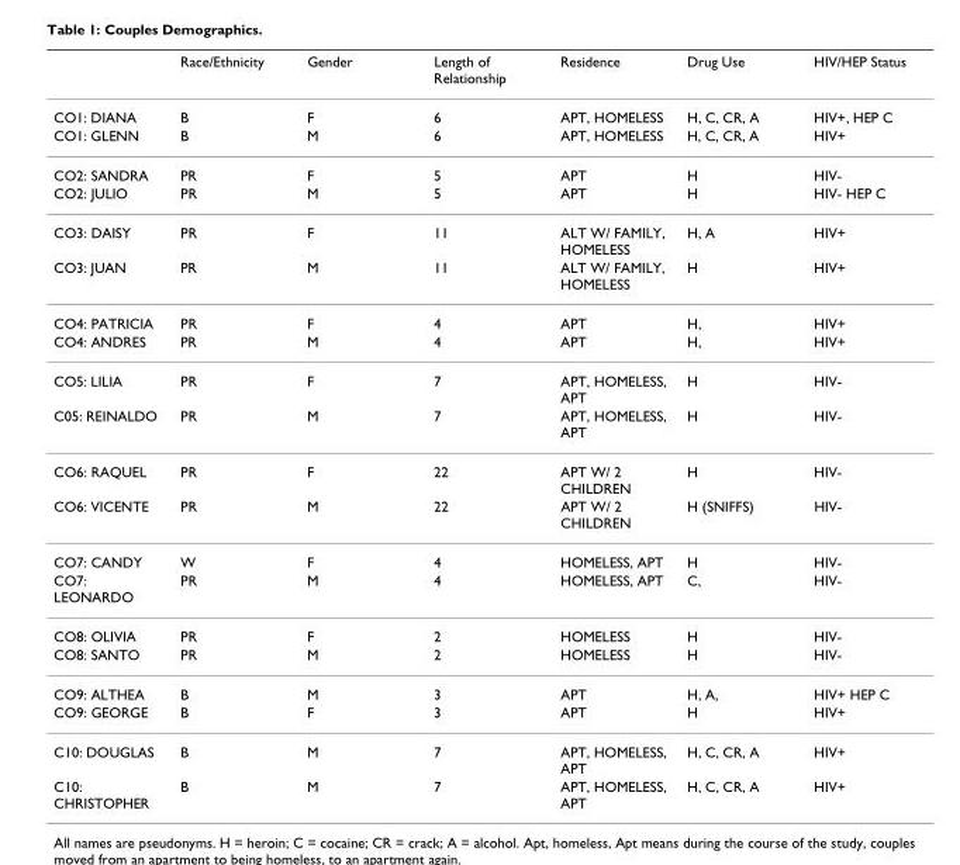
<table><thead><tr><td></td><td>Race/Ethnicity</td><td>Gender</td><td>Length of Relationship</td><td>Residence</td><td>Drug Use</td><td>HIV/HEP Status</td></tr></thead><tbody><tr><td>CO1: DIANA</td><td>B</td><td>F</td><td>6</td><td>APT, HOMELESS</td><td>H, C, CR, A</td><td>HIV+, HEP C</td></tr><tr><td>CO1: GLENN</td><td>B</td><td>M</td><td>6</td><td>APT, HOMELESS</td><td>H, C, CR, A</td><td>HIV+</td></tr><tr><td>CO2: SANDRA</td><td>PR</td><td>F</td><td>5</td><td>APT</td><td>H</td><td>HIV-</td></tr><tr><td>CO2: JULIO</td><td>PR</td><td>M</td><td>5</td><td>APT</td><td>H</td><td>HIV- HEP C</td></tr><tr><td>CO3: DAISY</td><td>PR</td><td>F</td><td>11</td><td>ALT W/ FAMILY, HOMELESS</td><td>H, A</td><td>HIV+</td></tr><tr><td>CO3: JUAN</td><td>PR</td><td>M</td><td>11</td><td>ALT W/ FAMILY, HOMELESS</td><td>H</td><td>HIV+</td></tr><tr><td>CO4: PATRICIA</td><td>PR</td><td>F</td><td>4</td><td>APT</td><td>H,</td><td>HIV+</td></tr><tr><td>CO4: ANDRES</td><td>PR</td><td>M</td><td>4</td><td>APT</td><td>H,</td><td>HIV+</td></tr><tr><td>CO5: LILIA</td><td>PR</td><td>F</td><td>7</td><td>APT, HOMELESS, APT</td><td>H</td><td>HIV-</td></tr><tr><td>C05: REINALDO</td><td>PR</td><td>M</td><td>7</td><td>APT, HOMELESS, APT</td><td>H</td><td>HIV-</td></tr><tr><td>CO6: RAQUEL</td><td>PR</td><td>F</td><td>22</td><td>APT W/ 2 CHILDREN</td><td>H</td><td>HIV-</td></tr><tr><td>CO6: VICENTE</td><td>PR</td><td>M</td><td>22</td><td>APT W/ 2 CHILDREN</td><td>H (SNIFFS)</td><td>HIV-</td></tr><tr><td>CO7: CANDY</td><td>W</td><td>F</td><td>4</td><td>HOMELESS, APT</td><td>H</td><td>HIV-</td></tr><tr><td>CO7: LEONARDO</td><td>PR</td><td>M</td><td>4</td><td>HOMELESS, APT</td><td>C,</td><td>HIV-</td></tr><tr><td>CO8: OLIVIA</td><td>PR</td><td>F</td><td>2</td><td>HOMELESS</td><td>H</td><td>HIV-</td></tr><tr><td>CO8: SANTO</td><td>PR</td><td>M</td><td>2</td><td>HOMELESS</td><td>H</td><td>HIV-</td></tr><tr><td>CO9: ALTHEA</td><td>B</td><td>M</td><td>3</td><td>APT</td><td>H, A,</td><td>HIV+ HEP C</td></tr><tr><td>CO9: GEORGE</td><td>B</td><td>F</td><td>3</td><td>APT</td><td>H</td><td>HIV+</td></tr><tr><td>C10: DOUGLAS</td><td>B</td><td>M</td><td>7</td><td>APT, HOMELESS, APT</td><td>H, C, CR, A</td><td>HIV+</td></tr><tr><td>C10: CHRISTOPHER</td><td>B</td><td>M</td><td>7</td><td>APT, HOMELESS, APT</td><td>H, C, CR, A</td><td>HIV+</td></tr></tbody></table>